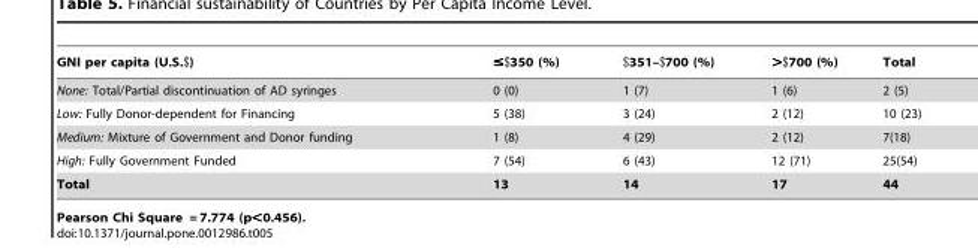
<table><thead><tr><td>GNI per capita (U.S.$)</td><td>≤$350 (%)</td><td>$351–$700 (%)</td><td>&gt;$700 (%)</td><td>Total</td></tr></thead><tbody><tr><td>None: Total/Partial discontinuation of AD syringes</td><td>0 (0)</td><td>1 (7)</td><td>1 (6)</td><td>2 (5)</td></tr><tr><td>Low: Fully Donor-dependent for Financing</td><td>5 (38)</td><td>3 (24)</td><td>2 (12)</td><td>10 (23)</td></tr><tr><td>Medium: Mixture of Government and Donor funding</td><td>1 (8)</td><td>4 (29)</td><td>2 (12)</td><td>7(18)</td></tr><tr><td>High: Fully Government Funded</td><td>7 (54)</td><td>6 (43)</td><td>12 (71)</td><td>25(54)</td></tr><tr><td>Total</td><td>13</td><td>14</td><td>17</td><td>44</td></tr></tbody></table>